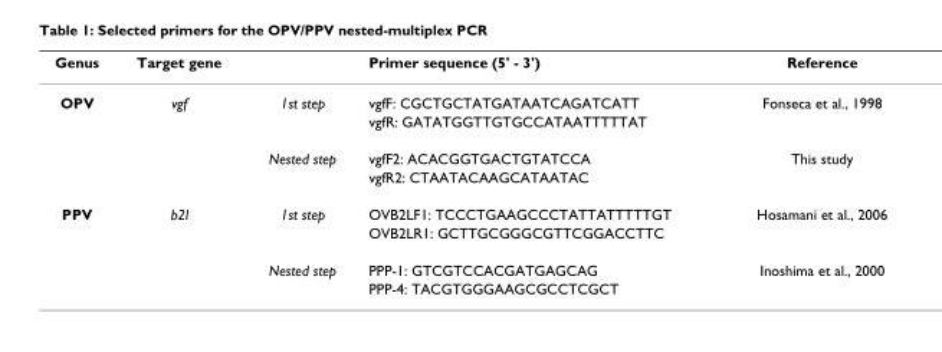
<table><thead><tr><td>Genus</td><td>Target gene</td><td></td><td>Primer sequence (5&#x27; - 3&#x27;)</td><td>Reference</td></tr></thead><tbody><tr><td rowspan="4">OPV</td><td>vgf</td><td>1st step</td><td>vgfF: CGCTGCTATGATAATCAGATCATT</td><td>Fonseca et al., 1998</td></tr><tr><td></td><td></td><td>vgfR: GATATGGTTGTGCCATAATTTTTAT</td><td></td></tr><tr><td></td><td>Nested step</td><td>vgfF2: ACACGGTGACTGTATCCA</td><td>This study</td></tr><tr><td></td><td></td><td>vgfR2: CTAATACAAGCATAATAC</td><td></td></tr><tr><td rowspan="4">PPV</td><td>b2l</td><td>1st step</td><td>OVB2LF1: TCCCTGAAGCCCTATTATTTTTGT</td><td>Hosamani et al., 2006</td></tr><tr><td></td><td></td><td>OVB2LR1: GCTTGCGGGCGTTCGGACCTTC</td><td></td></tr><tr><td></td><td>Nested step</td><td>PPP-1: GTCGTCCACGATGAGCAG</td><td>Inoshima et al., 2000</td></tr><tr><td></td><td></td><td>PPP-4: TACGTGGGAAGCGCCTCGCT</td><td></td></tr></tbody></table>